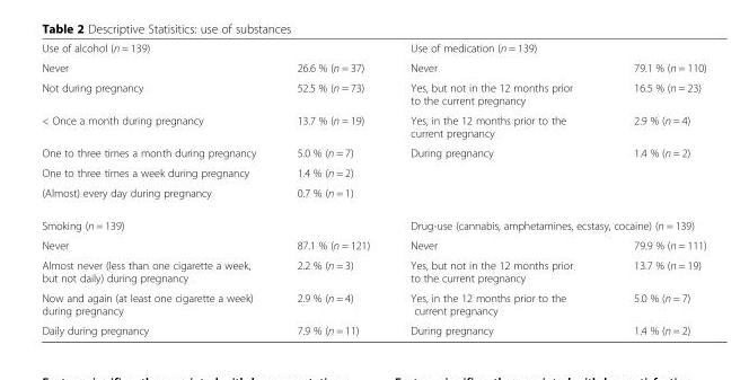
<table><tbody><tr><td>Use of alcohol (n = 139)</td><td></td><td>Use of medication (n = 139)</td><td></td></tr><tr><td>Never</td><td>26.6 % (n = 37)</td><td>Never</td><td>79.1 % (n = 110)</td></tr><tr><td>Not during pregnancy</td><td>52.5 % (n = 73)</td><td>Yes, but not in the 12 months prior to the current pregnancy</td><td>16.5 % (n = 23)</td></tr><tr><td>&lt; Once a month during pregnancy</td><td>13.7 % (n = 19)</td><td>Yes, in the 12 months prior to the current pregnancy</td><td>2.9 % (n = 4)</td></tr><tr><td>One to three times a month during pregnancy</td><td>5.0 % (n = 7)</td><td>During pregnancy</td><td>1.4 % (n = 2)</td></tr><tr><td>One to three times a week during pregnancy</td><td>1.4 % (n = 2)</td><td></td><td></td></tr><tr><td>(Almost) every day during pregnancy</td><td>0.7 % (n = 1)</td><td></td><td></td></tr><tr><td>Smoking (n = 139)</td><td></td><td colspan="2">Drug-use (cannabis, amphetamines, ecstasy, cocaine) (n = 139)</td></tr><tr><td>Never</td><td>87.1 % (n = 121)</td><td>Never</td><td>79.9 % (n = 111)</td></tr><tr><td>Almost never (less than one cigarette a week, but not daily) during pregnancy</td><td>2.2 % (n = 3)</td><td>Yes, but not in the 12 months prior to the current pregnancy</td><td>13.7 % (n = 19)</td></tr><tr><td>Now and again (at least one cigarette a week) during pregnancy</td><td>2.9 % (n = 4)</td><td>Yes, in the 12 months prior to the current pregnancy</td><td>5.0 % (n = 7)</td></tr><tr><td>Daily during pregnancy</td><td>7.9 % (n = 11)</td><td>During pregnancy</td><td>1.4 % (n = 2)</td></tr></tbody></table>